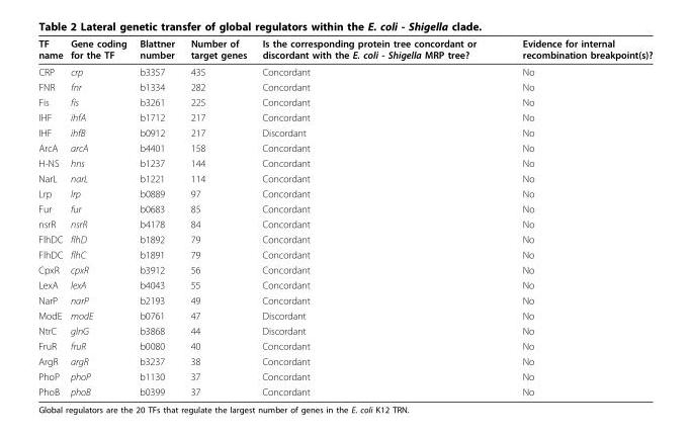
<table><thead><tr><td>TF name</td><td>Gene coding for the TF</td><td>Blattner number</td><td>Number of target genes</td><td>Is the corresponding protein tree concordant or discordant with the E. coli - Shigella MRP tree?</td><td>Evidence for internal recombination breakpoint(s)?</td></tr></thead><tbody><tr><td>CRP</td><td>crp</td><td>b3357</td><td>435</td><td>Concordant</td><td>No</td></tr><tr><td>FNR</td><td>fnr</td><td>b1334</td><td>282</td><td>Concordant</td><td>No</td></tr><tr><td>Fis</td><td>fis</td><td>b3261</td><td>225</td><td>Concordant</td><td>No</td></tr><tr><td>IHF</td><td>ihfA</td><td>b1712</td><td>217</td><td>Concordant</td><td>No</td></tr><tr><td>IHF</td><td>ihfB</td><td>b0912</td><td>217</td><td>Discordant</td><td>No</td></tr><tr><td>ArcA</td><td>arcA</td><td>b4401</td><td>158</td><td>Concordant</td><td>No</td></tr><tr><td>H-NS</td><td>hns</td><td>b1237</td><td>144</td><td>Concordant</td><td>No</td></tr><tr><td>NarL</td><td>narL</td><td>b1221</td><td>114</td><td>Concordant</td><td>No</td></tr><tr><td>Lrp</td><td>lrp</td><td>b0889</td><td>97</td><td>Concordant</td><td>No</td></tr><tr><td>Fur</td><td>fur</td><td>b0683</td><td>85</td><td>Concordant</td><td>No</td></tr><tr><td>nsrR</td><td>nsrR</td><td>b4178</td><td>84</td><td>Concordant</td><td>No</td></tr><tr><td>FlhDC</td><td>flhD</td><td>b1892</td><td>79</td><td>Concordant</td><td>No</td></tr><tr><td>FlhDC</td><td>flhC</td><td>b1891</td><td>79</td><td>Concordant</td><td>No</td></tr><tr><td>CpxR</td><td>cpxR</td><td>b3912</td><td>56</td><td>Concordant</td><td>No</td></tr><tr><td>LexA</td><td>lexA</td><td>b4043</td><td>55</td><td>Concordant</td><td>No</td></tr><tr><td>NarP</td><td>narP</td><td>b2193</td><td>49</td><td>Concordant</td><td>No</td></tr><tr><td>ModE</td><td>modE</td><td>b0761</td><td>47</td><td>Discordant</td><td>No</td></tr><tr><td>NtrC</td><td>glnG</td><td>b3868</td><td>44</td><td>Discordant</td><td>No</td></tr><tr><td>FruR</td><td>fruR</td><td>b0080</td><td>40</td><td>Concordant</td><td>No</td></tr><tr><td>ArgR</td><td>argR</td><td>b3237</td><td>38</td><td>Concordant</td><td>No</td></tr><tr><td>PhoP</td><td>phoP</td><td>b1130</td><td>37</td><td>Concordant</td><td>No</td></tr><tr><td>PhoB</td><td>phoB</td><td>b0399</td><td>37</td><td>Concordant</td><td>No</td></tr></tbody></table>